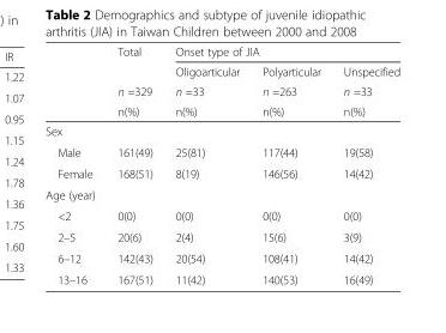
<table><thead><tr><td rowspan="4"></td><td rowspan="4">Total n =329 n(%)</td><td colspan="3">Onset type of JIA</td></tr><tr><td rowspan="3">Oligoarticular n =33 n(%)</td><td rowspan="3">Polyarticular n =263 n(%)</td><td rowspan="3">Unspecified n =33 n(%)</td></tr><tr></tr><tr></tr></thead><tbody><tr><td colspan="5">Sex</td></tr><tr><td>Male</td><td>161(49)</td><td>25(81)</td><td>117(44)</td><td>19(58)</td></tr><tr><td>Female</td><td>168(51)</td><td>8(19)</td><td>146(56)</td><td>14(42)</td></tr><tr><td colspan="5">Age (year)</td></tr><tr><td>&lt;2</td><td>0(0)</td><td>0(0)</td><td>0(0)</td><td>0(0)</td></tr><tr><td>2–5</td><td>20(6)</td><td>2(4)</td><td>15(6)</td><td>3(9)</td></tr><tr><td>6–12</td><td>142(43)</td><td>20(54)</td><td>108(41)</td><td>14(42)</td></tr><tr><td>13–16</td><td>167(51)</td><td>11(42)</td><td>140(53)</td><td>16(49)</td></tr></tbody></table>